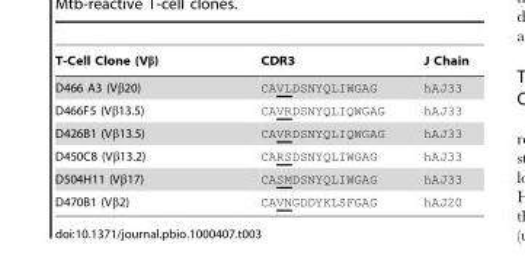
<table><thead><tr><td>T-Cell Clone (Vβ)</td><td>CDR3</td><td>J Chain</td></tr></thead><tbody><tr><td>D466 A3 (Vβ20)</td><td>CAVLDSNYQLIWGAG</td><td>hAJ33</td></tr><tr><td>D466F5 (Vβ13.5)</td><td>CAVRDSNYQLIQWGAG</td><td>hAJ33</td></tr><tr><td>D426B1 (Vβ13.5)</td><td>CAVRDSNYQLIQWGAG</td><td>hAJ33</td></tr><tr><td>D450C8 (Vβ13.2)</td><td>CARSDSNYQLIWGAG</td><td>hAJ33</td></tr><tr><td>D504H11 (Vβ17)</td><td>CASMDSNYQLIWGAG</td><td>hAJ33</td></tr><tr><td>D470B1 (Vβ2)</td><td>CAVNGDDYKLSFGAG</td><td>hAJ20</td></tr></tbody></table>